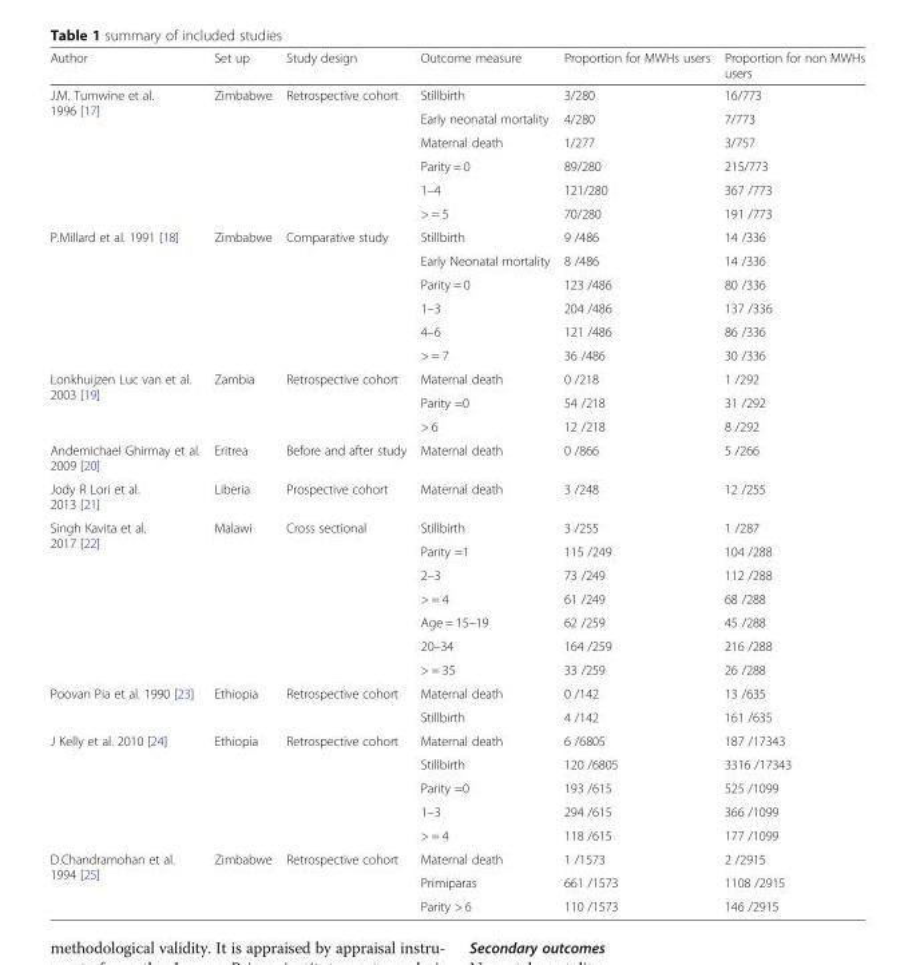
<table><thead><tr><td>Author</td><td>Set up</td><td>Study design</td><td>Outcome measure</td><td>Proportion for MWHs users</td><td>Proportion for non MWHs users</td></tr></thead><tbody><tr><td rowspan="6">J.M. Tumwine et al. 1996 [17]</td><td rowspan="6">Zimbabwe</td><td rowspan="6">Retrospective cohort</td><td>Stillbirth</td><td>3/280</td><td>16/773</td></tr><tr><td>Early neonatal mortality</td><td>4/280</td><td>7/773</td></tr><tr><td>Maternal death</td><td>1/277</td><td>3/757</td></tr><tr><td>Parity = 0</td><td>89/280</td><td>215/773</td></tr><tr><td>1–4</td><td>121/280</td><td>367 /773</td></tr><tr><td>&gt; = 5</td><td>70/280</td><td>191 /773</td></tr><tr><td rowspan="6">P.Millard et al. 1991 [18]</td><td rowspan="6">Zimbabwe</td><td rowspan="6">Comparative study</td><td>Stillbirth</td><td>9 /486</td><td>14 /336</td></tr><tr><td>Early Neonatal mortality</td><td>8 /486</td><td>14 /336</td></tr><tr><td>Parity = 0</td><td>123 /486</td><td>80 /336</td></tr><tr><td>1–3</td><td>204 /486</td><td>137 /336</td></tr><tr><td>4–6</td><td>121 /486</td><td>86 /336</td></tr><tr><td>&gt; = 7</td><td>36 /486</td><td>30 /336</td></tr><tr><td rowspan="3">Lonkhuijzen Luc van et al. 2003 [19]</td><td rowspan="3">Zambia</td><td rowspan="3">Retrospective cohort</td><td>Maternal death</td><td>0 /218</td><td>1 /292</td></tr><tr><td>Parity =0</td><td>54 /218</td><td>31 /292</td></tr><tr><td>&gt; 6</td><td>12 /218</td><td>8 /292</td></tr><tr><td>Andemichael Ghirmay et al. 2009 [20]</td><td>Eritrea</td><td>Before and after study</td><td>Maternal death</td><td>0 /866</td><td>5 /266</td></tr><tr><td>Jody R Lori et al. 2013 [21]</td><td>Liberia</td><td>Prospective cohort</td><td>Maternal death</td><td>3 /248</td><td>12 /255</td></tr><tr><td rowspan="7">Singh Kavita et al. 2017 [22]</td><td rowspan="7">Malawi</td><td rowspan="7">Cross sectional</td><td>Stillbirth</td><td>3 /255</td><td>1 /287</td></tr><tr><td>Parity =1</td><td>115 /249</td><td>104 /288</td></tr><tr><td>2–3</td><td>73 /249</td><td>112 /288</td></tr><tr><td>&gt; = 4</td><td>61 /249</td><td>68 /288</td></tr><tr><td>Age = 15–19</td><td>62 /259</td><td>45 /288</td></tr><tr><td>20–34</td><td>164 /259</td><td>216 /288</td></tr><tr><td>&gt; = 35</td><td>33 /259</td><td>26 /288</td></tr><tr><td rowspan="2">Poovan Pia et al. 1990 [23]</td><td rowspan="2">Ethiopia</td><td rowspan="2">Retrospective cohort</td><td>Maternal death</td><td>0 /142</td><td>13 /635</td></tr><tr><td>Stillbirth</td><td>4 /142</td><td>161 /635</td></tr><tr><td rowspan="5">J Kelly et al. 2010 [24]</td><td rowspan="5">Ethiopia</td><td rowspan="5">Retrospective cohort</td><td>Maternal death</td><td>6 /6805</td><td>187 /17343</td></tr><tr><td>Stillbirth</td><td>120 /6805</td><td>3316 /17343</td></tr><tr><td>Parity =0</td><td>193 /615</td><td>525 /1099</td></tr><tr><td>1–3</td><td>294 /615</td><td>366 /1099</td></tr><tr><td>&gt; = 4</td><td>118 /615</td><td>177 /1099</td></tr><tr><td rowspan="3">D.Chandramohan et al. 1994 [25]</td><td rowspan="3">Zimbabwe</td><td rowspan="3">Retrospective cohort</td><td>Maternal death</td><td>1 /1573</td><td>2 /2915</td></tr><tr><td>Primiparas</td><td>661 /1573</td><td>1108 /2915</td></tr><tr><td>Parity &gt; 6</td><td>110 /1573</td><td>146 /2915</td></tr></tbody></table>